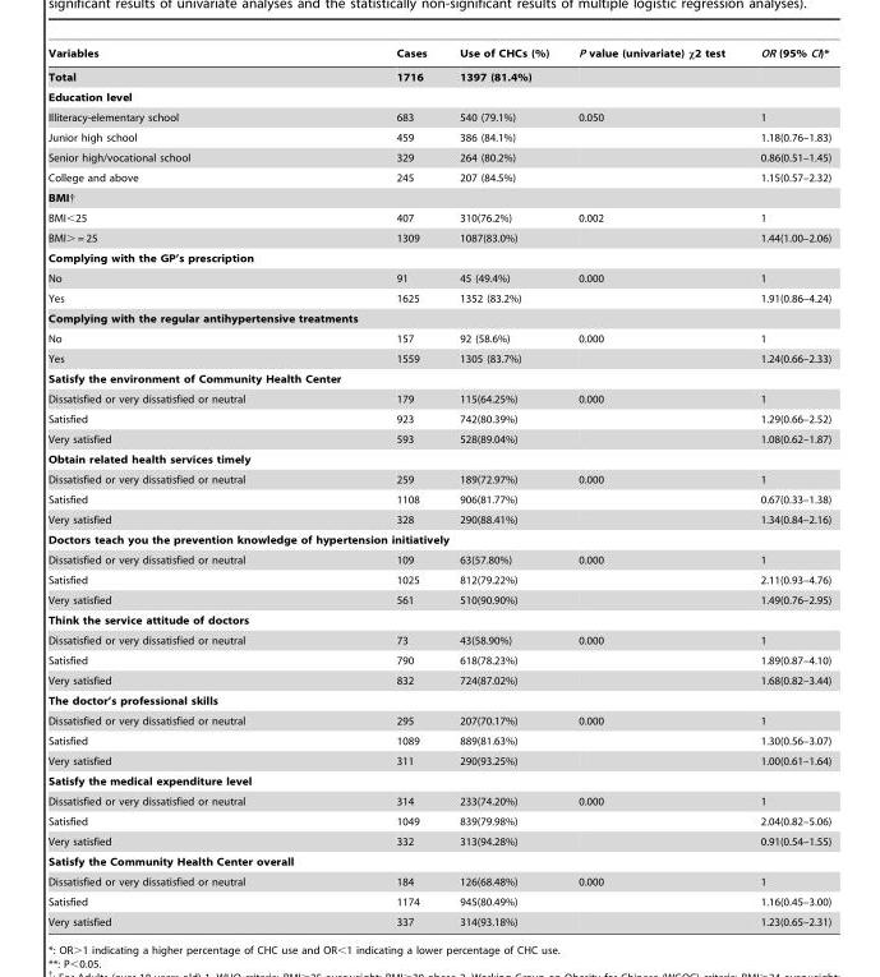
<table><thead><tr><td>Variables</td><td>Cases</td><td>Use of CHCs (%)</td><td>P value (univariate) χ2 test</td><td>OR (95% CI)*</td></tr></thead><tbody><tr><td>Total</td><td>1716</td><td>1397 (81.4%)</td><td></td><td></td></tr><tr><td colspan="5">Education level</td></tr><tr><td>Illiteracy-elementary school</td><td>683</td><td>540 (79.1%)</td><td>0.050</td><td>1</td></tr><tr><td>Junior high school</td><td>459</td><td>386 (84.1%)</td><td></td><td>1.18(0.76–1.83)</td></tr><tr><td>Senior high/vocational school</td><td>329</td><td>264 (80.2%)</td><td></td><td>0.86(0.51–1.45)</td></tr><tr><td>College and above</td><td>245</td><td>207 (84.5%)</td><td></td><td>1.15(0.57–2.32)</td></tr><tr><td colspan="5">BMI†</td></tr><tr><td>BMI&lt;25</td><td>407</td><td>310(76.2%)</td><td>0.002</td><td>1</td></tr><tr><td>BMI&gt; = 25</td><td>1309</td><td>1087(83.0%)</td><td></td><td>1.44(1.00–2.06)</td></tr><tr><td colspan="5">Complying with the GP’s prescription</td></tr><tr><td>No</td><td>91</td><td>45 (49.4%)</td><td>0.000</td><td>1</td></tr><tr><td>Yes</td><td>1625</td><td>1352 (83.2%)</td><td></td><td>1.91(0.86–4.24)</td></tr><tr><td colspan="5">Complying with the regular antihypertensive treatments</td></tr><tr><td>No</td><td>157</td><td>92 (58.6%)</td><td>0.000</td><td>1</td></tr><tr><td>Yes</td><td>1559</td><td>1305 (83.7%)</td><td></td><td>1.24(0.66–2.33)</td></tr><tr><td colspan="5">Satisfy the environment of Community Health Center</td></tr><tr><td>Dissatisfied or very dissatisfied or neutral</td><td>179</td><td>115(64.25%)</td><td>0.000</td><td>1</td></tr><tr><td>Satisfied</td><td>923</td><td>742(80.39%)</td><td></td><td>1.29(0.66–2.52)</td></tr><tr><td>Very satisfied</td><td>593</td><td>528(89.04%)</td><td></td><td>1.08(0.62–1.87)</td></tr><tr><td colspan="5">Obtain related health services timely</td></tr><tr><td>Dissatisfied or very dissatisfied or neutral</td><td>259</td><td>189(72.97%)</td><td>0.000</td><td>1</td></tr><tr><td>Satisfied</td><td>1108</td><td>906(81.77%)</td><td></td><td>0.67(0.33–1.38)</td></tr><tr><td>Very satisfied</td><td>328</td><td>290(88.41%)</td><td></td><td>1.34(0.84–2.16)</td></tr><tr><td colspan="5">Doctors teach you the prevention knowledge of hypertension initiatively</td></tr><tr><td>Dissatisfied or very dissatisfied or neutral</td><td>109</td><td>63(57.80%)</td><td>0.000</td><td>1</td></tr><tr><td>Satisfied</td><td>1025</td><td>812(79.22%)</td><td></td><td>2.11(0.93–4.76)</td></tr><tr><td>Very satisfied</td><td>561</td><td>510(90.90%)</td><td></td><td>1.49(0.76–2.95)</td></tr><tr><td colspan="5">Think the service attitude of doctors</td></tr><tr><td>Dissatisfied or very dissatisfied or neutral</td><td>73</td><td>43(58.90%)</td><td>0.000</td><td>1</td></tr><tr><td>Satisfied</td><td>790</td><td>618(78.23%)</td><td></td><td>1.89(0.87–4.10)</td></tr><tr><td>Very satisfied</td><td>832</td><td>724(87.02%)</td><td></td><td>1.68(0.82–3.44)</td></tr><tr><td colspan="5">The doctor’s professional skills</td></tr><tr><td>Dissatisfied or very dissatisfied or neutral</td><td>295</td><td>207(70.17%)</td><td>0.000</td><td>1</td></tr><tr><td>Satisfied</td><td>1089</td><td>889(81.63%)</td><td></td><td>1.30(0.56–3.07)</td></tr><tr><td>Very satisfied</td><td>311</td><td>290(93.25%)</td><td></td><td>1.00(0.61–1.64)</td></tr><tr><td colspan="5">Satisfy the medical expenditure level</td></tr><tr><td>Dissatisfied or very dissatisfied or neutral</td><td>314</td><td>233(74.20%)</td><td>0.000</td><td>1</td></tr><tr><td>Satisfied</td><td>1049</td><td>839(79.98%)</td><td></td><td>2.04(0.82–5.06)</td></tr><tr><td>Very satisfied</td><td>332</td><td>313(94.28%)</td><td></td><td>0.91(0.54–1.55)</td></tr><tr><td colspan="5">Satisfy the Community Health Center overall</td></tr><tr><td>Dissatisfied or very dissatisfied or neutral</td><td>184</td><td>126(68.48%)</td><td>0.000</td><td>1</td></tr><tr><td>Satisfied</td><td>1174</td><td>945(80.49%)</td><td></td><td>1.16(0.45–3.00)</td></tr><tr><td>Very satisfied</td><td>337</td><td>314(93.18%)</td><td></td><td>1.23(0.65–2.31)</td></tr></tbody></table>